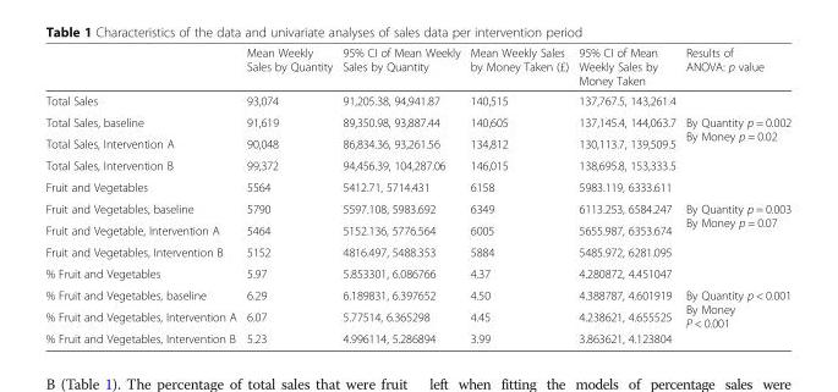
<table><thead><tr><td></td><td>Mean Weekly Sales by Quantity</td><td>95% CI of Mean Weekly Sales by Quantity</td><td>Mean Weekly Sales by Money Taken (£)</td><td>95% CI of Mean Weekly Sales by Money Taken</td><td>Results of ANOVA: p value</td></tr></thead><tbody><tr><td>Total Sales</td><td>93,074</td><td>91,205.38, 94,941.87</td><td>140,515</td><td>137,767.5, 143,261.4</td><td></td></tr><tr><td>Total Sales, baseline</td><td>91,619</td><td>89,350.98, 93,887.44</td><td>140,605</td><td>137,145.4, 144,063.7</td><td rowspan="3">By Quantity p = 0.002 By Money p = 0.02</td></tr><tr><td>Total Sales, Intervention A</td><td>90,048</td><td>86,834.36, 93,261.56</td><td>134,812</td><td>130,113.7, 139,509.5</td></tr><tr><td>Total Sales, Intervention B</td><td>99,372</td><td>94,456.39, 104,287.06</td><td>146,015</td><td>138,695.8, 153,333.5</td></tr><tr><td>Fruit and Vegetables</td><td>5564</td><td>5412.71, 5714.431</td><td>6158</td><td>5983.119, 6333.611</td><td></td></tr><tr><td>Fruit and Vegetables, baseline</td><td>5790</td><td>5597.108, 5983.692</td><td>6349</td><td>6113.253, 6584.247</td><td rowspan="3">By Quantity p = 0.003 By Money p = 0.07</td></tr><tr><td>Fruit and Vegetable, Intervention A</td><td>5464</td><td>5152.136, 5776.564</td><td>6005</td><td>5655.987, 6353.674</td></tr><tr><td>Fruit and Vegetables, Intervention B</td><td>5152</td><td>4816.497, 5488.353</td><td>5884</td><td>5485.972, 6281.095</td></tr><tr><td>% Fruit and Vegetables</td><td>5.97</td><td>5.853301, 6.086766</td><td>4.37</td><td>4.280872, 4.451047</td><td></td></tr><tr><td>% Fruit and Vegetables, baseline</td><td>6.29</td><td>6.189831, 6.397652</td><td>4.50</td><td>4.388787, 4.601919</td><td rowspan="3">By Quantity p &lt; 0.001 By Money P &lt; 0.001</td></tr><tr><td>% Fruit and Vegetables, Intervention A</td><td>6.07</td><td>5.77514, 6.365298</td><td>4.45</td><td>4.238621, 4.655525</td></tr><tr><td>% Fruit and Vegetables, Intervention B</td><td>5.23</td><td>4.996114, 5.286894</td><td>3.99</td><td>3.863621, 4.123804</td></tr></tbody></table>